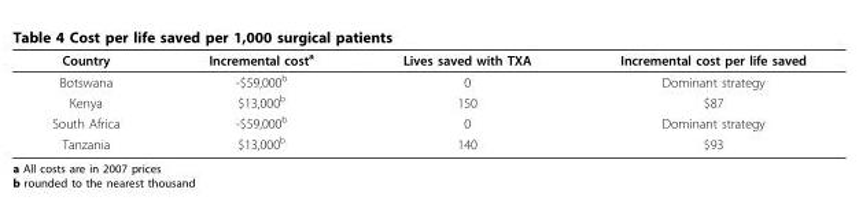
<table><thead><tr><td>Country</td><td>Incremental cost<sup>a</sup></td><td>Lives saved with TXA</td><td>Incremental cost per life saved</td></tr></thead><tbody><tr><td>Botswana</td><td>-$59,000<sup>b</sup></td><td>0</td><td>Dominant strategy</td></tr><tr><td>Kenya</td><td>$13,000<sup>b</sup></td><td>150</td><td>$87</td></tr><tr><td>South Africa</td><td>-$59,000<sup>b</sup></td><td>0</td><td>Dominant strategy</td></tr><tr><td>Tanzania</td><td>$13,000<sup>b</sup></td><td>140</td><td>$93</td></tr></tbody></table>